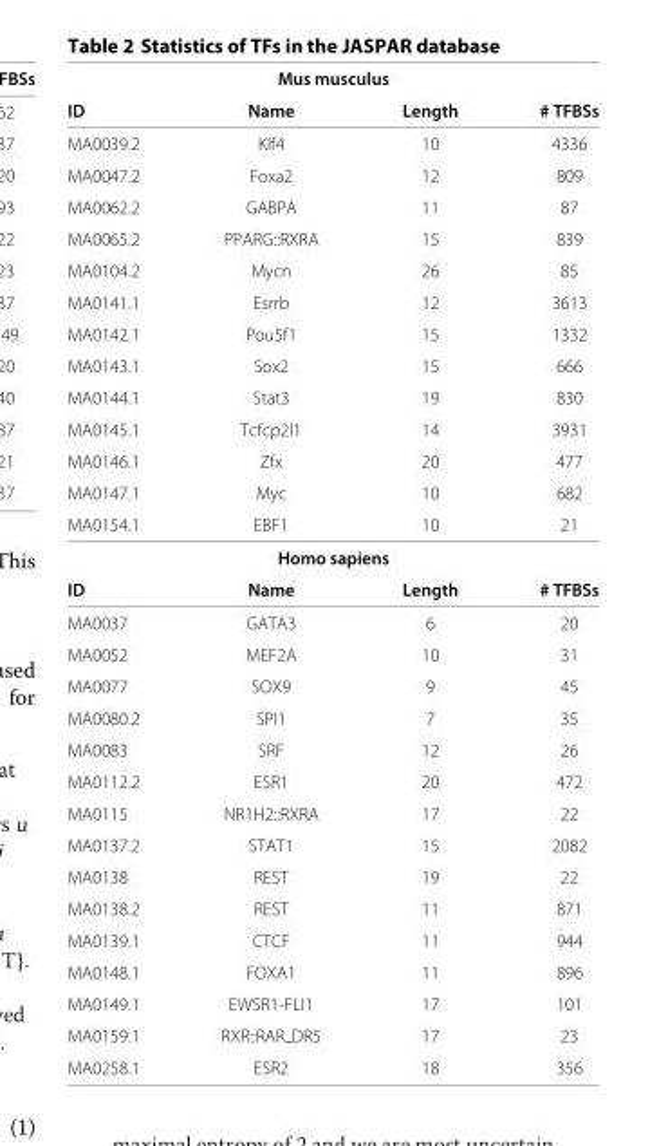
<table><thead><tr><td colspan="4">Mus musculus</td></tr><tr><td>ID</td><td>Name</td><td>Length</td><td># TFBSs</td></tr></thead><tbody><tr><td>MA0039.2</td><td>Klf4</td><td>10</td><td>4336</td></tr><tr><td>MA0047.2</td><td>Foxa2</td><td>12</td><td>809</td></tr><tr><td>MA0062.2</td><td>GABPA</td><td>11</td><td>87</td></tr><tr><td>MA0065.2</td><td>PPARG::RXRA</td><td>15</td><td>839</td></tr><tr><td>MA0104.2</td><td>Mycn</td><td>26</td><td>85</td></tr><tr><td>MA0141.1</td><td>Esrrb</td><td>12</td><td>3613</td></tr><tr><td>MA0142.1</td><td>Pou5f1</td><td>15</td><td>1332</td></tr><tr><td>MA0143.1</td><td>Sox2</td><td>15</td><td>666</td></tr><tr><td>MA0144.1</td><td>Stat3</td><td>19</td><td>830</td></tr><tr><td>MA0145.1</td><td>Tcfcp2l1</td><td>14</td><td>3931</td></tr><tr><td>MA0146.1</td><td>Zfx</td><td>20</td><td>477</td></tr><tr><td>MA0147.1</td><td>Myc</td><td>10</td><td>682</td></tr><tr><td>MA0154.1</td><td>EBF1</td><td>10</td><td>21</td></tr><tr><td colspan="4">Homo sapiens</td></tr><tr><td>ID</td><td>Name</td><td>Length</td><td># TFBSs</td></tr><tr><td>MA0037</td><td>GATA3</td><td>6</td><td>20</td></tr><tr><td>MA0052</td><td>MEF2A</td><td>10</td><td>31</td></tr><tr><td>MA0077</td><td>SOX9</td><td>9</td><td>45</td></tr><tr><td>MA0080.2</td><td>SPI1</td><td>7</td><td>35</td></tr><tr><td>MA0083</td><td>SRF</td><td>12</td><td>26</td></tr><tr><td>MA0112.2</td><td>ESR1</td><td>20</td><td>472</td></tr><tr><td>MA0115</td><td>NR1H2::RXRA</td><td>17</td><td>22</td></tr><tr><td>MA0137.2</td><td>STAT1</td><td>15</td><td>2082</td></tr><tr><td>MA0138</td><td>REST</td><td>19</td><td>22</td></tr><tr><td>MA0138.2</td><td>REST</td><td>11</td><td>871</td></tr><tr><td>MA0139.1</td><td>CTCF</td><td>11</td><td>944</td></tr><tr><td>MA0148.1</td><td>FOXA1</td><td>11</td><td>896</td></tr><tr><td>MA0149.1</td><td>EWSR1-FLI1</td><td>17</td><td>101</td></tr><tr><td>MA0159.1</td><td>RXR::RAR DR5</td><td>17</td><td>23</td></tr><tr><td>MA0258.1</td><td>ESR2</td><td>18</td><td>356</td></tr></tbody></table>